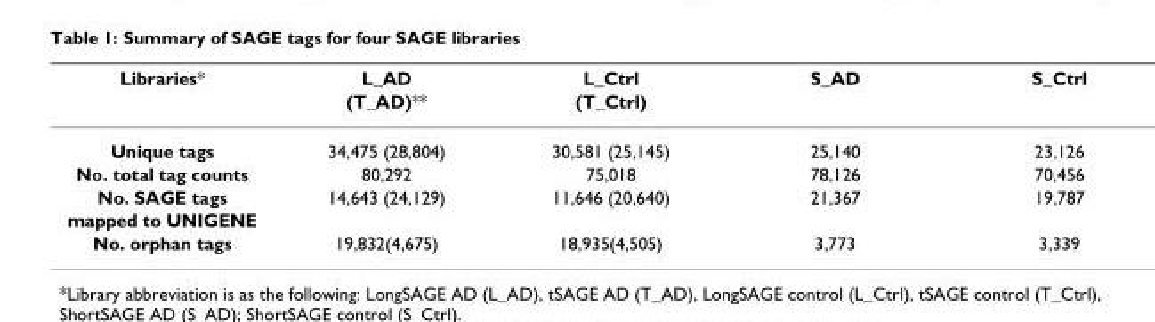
<table><thead><tr><td rowspan="2">Libraries*</td><td rowspan="2">L_AD (T_AD)**</td><td rowspan="2">L_Ctrl (T_Ctrl)</td><td rowspan="2">S_AD</td><td rowspan="2">S_Ctrl</td></tr><tr></tr></thead><tbody><tr><td>Unique tags</td><td>34,475 (28,804)</td><td>30,581 (25,145)</td><td>25,140</td><td>23,126</td></tr><tr><td>No. total tag counts</td><td>80,292</td><td>75,018</td><td>78,126</td><td>70,456</td></tr><tr><td>No. SAGE tags</td><td>14,643 (24,129)</td><td>11,646 (20,640)</td><td>21,367</td><td>19,787</td></tr><tr><td colspan="5">mapped to UNIGENE</td></tr><tr><td>No. orphan tags</td><td>19,832(4,675)</td><td>18,935(4,505)</td><td>3,773</td><td>3,339</td></tr></tbody></table>